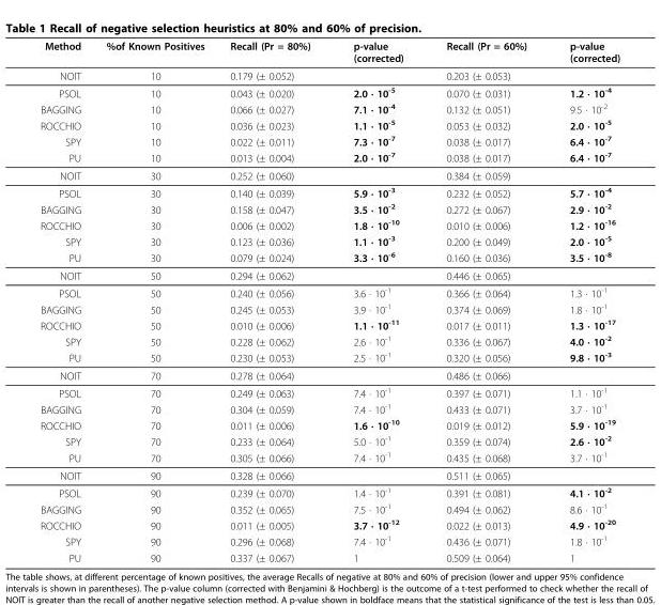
<table><thead><tr><td>Method</td><td>%of Known Positives</td><td>Recall (Pr = 80%)</td><td>p-value (corrected)</td><td>Recall (Pr = 60%)</td><td>p-value (corrected)</td></tr></thead><tbody><tr><td>NOIT</td><td>10</td><td>0.179 (± 0.052)</td><td></td><td>0.203 (± 0.053)</td><td></td></tr><tr><td>PSOL</td><td>10</td><td>0.043 (± 0.020)</td><td>2.0 · 10<sup>-5</sup></td><td>0.070 (± 0.031)</td><td>1.2 · 10<sup>-4</sup></td></tr><tr><td>BAGGING</td><td>10</td><td>0.066 (± 0.027)</td><td>7.1 · 10<sup>-4</sup></td><td>0.132 (± 0.051)</td><td>9.5 · 10<sup>-2</sup></td></tr><tr><td>ROCCHIO</td><td>10</td><td>0.036 (± 0.023)</td><td>1.1 · 10<sup>-5</sup></td><td>0.053 (± 0.032)</td><td>2.0 · 10<sup>-5</sup></td></tr><tr><td>SPY</td><td>10</td><td>0.022 (± 0.011)</td><td>7.3 · 10<sup>-7</sup></td><td>0.038 (± 0.017)</td><td>6.4 · 10<sup>-7</sup></td></tr><tr><td>PU</td><td>10</td><td>0.013 (± 0.004)</td><td>2.0 · 10<sup>-7</sup></td><td>0.038 (± 0.017)</td><td>6.4 · 10<sup>-7</sup></td></tr><tr><td>NOIT</td><td>30</td><td>0.252 (± 0.060)</td><td></td><td>0.384 (± 0.059)</td><td></td></tr><tr><td>PSOL</td><td>30</td><td>0.140 (± 0.039)</td><td>5.9 · 10<sup>-3</sup></td><td>0.232 (± 0.052)</td><td>5.7 · 10<sup>-4</sup></td></tr><tr><td>BAGGING</td><td>30</td><td>0.158 (± 0.047)</td><td>3.5 · 10<sup>-2</sup></td><td>0.272 (± 0.067)</td><td>2.9 · 10<sup>-2</sup></td></tr><tr><td>ROCCHIO</td><td>30</td><td>0.006 (± 0.002)</td><td>1.8 · 10<sup>-10</sup></td><td>0.010 (± 0.006)</td><td>1.2 · 10<sup>-16</sup></td></tr><tr><td>SPY</td><td>30</td><td>0.123 (± 0.036)</td><td>1.1 · 10<sup>-3</sup></td><td>0.200 (± 0.049)</td><td>2.0 · 10<sup>-5</sup></td></tr><tr><td>PU</td><td>30</td><td>0.079 (± 0.024)</td><td>3.3 · 10<sup>-6</sup></td><td>0.160 (± 0.036)</td><td>3.5 · 10<sup>-8</sup></td></tr><tr><td>NOIT</td><td>50</td><td>0.294 (± 0.062)</td><td></td><td>0.446 (± 0.065)</td><td></td></tr><tr><td>PSOL</td><td>50</td><td>0.240 (± 0.056)</td><td>3.6 · 10<sup>-1</sup></td><td>0.366 (± 0.064)</td><td>1.3 · 10<sup>-1</sup></td></tr><tr><td>BAGGING</td><td>50</td><td>0.245 (± 0.053)</td><td>3.9 · 10<sup>-1</sup></td><td>0.374 (± 0.069)</td><td>1.8 · 10<sup>-1</sup></td></tr><tr><td>ROCCHIO</td><td>50</td><td>0.010 (± 0.006)</td><td>1.1 · 10<sup>-11</sup></td><td>0.017 (± 0.011)</td><td>1.3 · 10<sup>-17</sup></td></tr><tr><td>SPY</td><td>50</td><td>0.228 (± 0.062)</td><td>2.6 · 10<sup>-1</sup></td><td>0.336 (± 0.067)</td><td>4.0 · 10<sup>-2</sup></td></tr><tr><td>PU</td><td>50</td><td>0.230 (± 0.053)</td><td>2.5 · 10<sup>-1</sup></td><td>0.320 (± 0.056)</td><td>9.8 · 10<sup>-3</sup></td></tr><tr><td>NOIT</td><td>70</td><td>0.278 (± 0.064)</td><td></td><td>0.486 (± 0.066)</td><td></td></tr><tr><td>PSOL</td><td>70</td><td>0.249 (± 0.063)</td><td>7.4 · 10<sup>-1</sup></td><td>0.397 (± 0.071)</td><td>1.1 · 10<sup>-1</sup></td></tr><tr><td>BAGGING</td><td>70</td><td>0.304 (± 0.059)</td><td>7.4 · 10<sup>-1</sup></td><td>0.433 (± 0.071)</td><td>3.7 · 10<sup>-1</sup></td></tr><tr><td>ROCCHIO</td><td>70</td><td>0.011 (± 0.006)</td><td>1.6 · 10<sup>-10</sup></td><td>0.019 (± 0.012)</td><td>5.9 · 10<sup>-19</sup></td></tr><tr><td>SPY</td><td>70</td><td>0.233 (± 0.064)</td><td>5.0 · 10<sup>-1</sup></td><td>0.359 (± 0.074)</td><td>2.6 · 10<sup>-2</sup></td></tr><tr><td>PU</td><td>70</td><td>0.305 (± 0.066)</td><td>7.4 · 10<sup>-1</sup></td><td>0.435 (± 0.068)</td><td>3.7 · 10<sup>-1</sup></td></tr><tr><td>NOIT</td><td>90</td><td>0.328 (± 0.066)</td><td></td><td>0.511 (± 0.065)</td><td></td></tr><tr><td>PSOL</td><td>90</td><td>0.239 (± 0.070)</td><td>1.4 · 10<sup>-1</sup></td><td>0.391 (± 0.081)</td><td>4.1 · 10<sup>-2</sup></td></tr><tr><td>BAGGING</td><td>90</td><td>0.352 (± 0.065)</td><td>7.5 · 10<sup>-1</sup></td><td>0.494 (± 0.062)</td><td>8.6 · 10<sup>-1</sup></td></tr><tr><td>ROCCHIO</td><td>90</td><td>0.011 (± 0.005)</td><td>3.7 · 10<sup>-12</sup></td><td>0.022 (± 0.013)</td><td>4.9 · 10<sup>-20</sup></td></tr><tr><td>SPY</td><td>90</td><td>0.296 (± 0.068)</td><td>7.4 · 10<sup>-1</sup></td><td>0.436 (± 0.071)</td><td>1.8 · 10<sup>-1</sup></td></tr><tr><td>PU</td><td>90</td><td>0.337 (± 0.067)</td><td>1</td><td>0.509 (± 0.064)</td><td>1</td></tr></tbody></table>